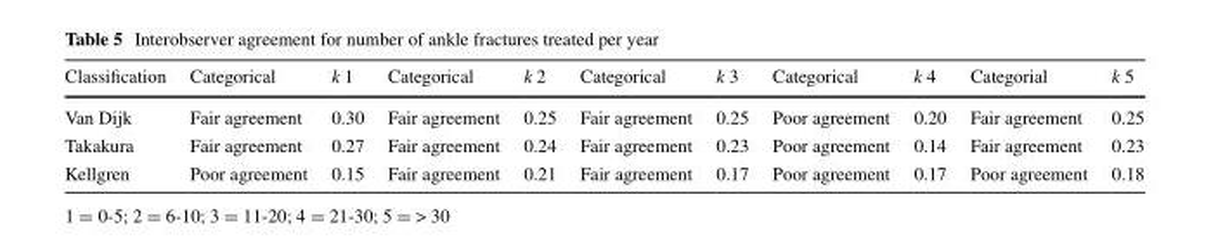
<table><thead><tr><td>Classification</td><td>Categorical</td><td>k 1</td><td>Categorical</td><td>k 2</td><td>Categorical</td><td>k 3</td><td>Categorical</td><td>k 4</td><td>Categorial</td><td>k 5</td></tr></thead><tbody><tr><td>Van Dijk</td><td>Fair agreement</td><td>0.30</td><td>Fair agreement</td><td>0.25</td><td>Fair agreement</td><td>0.25</td><td>Poor agreement</td><td>0.20</td><td>Fair agreement</td><td>0.25</td></tr><tr><td>Takakura</td><td>Fair agreement</td><td>0.27</td><td>Fair agreement</td><td>0.24</td><td>Fair agreement</td><td>0.23</td><td>Poor agreement</td><td>0.14</td><td>Fair agreement</td><td>0.23</td></tr><tr><td>Kellgren</td><td>Poor agreement</td><td>0.15</td><td>Fair agreement</td><td>0.21</td><td>Fair agreement</td><td>0.17</td><td>Poor agreement</td><td>0.17</td><td>Poor agreement</td><td>0.18</td></tr></tbody></table>